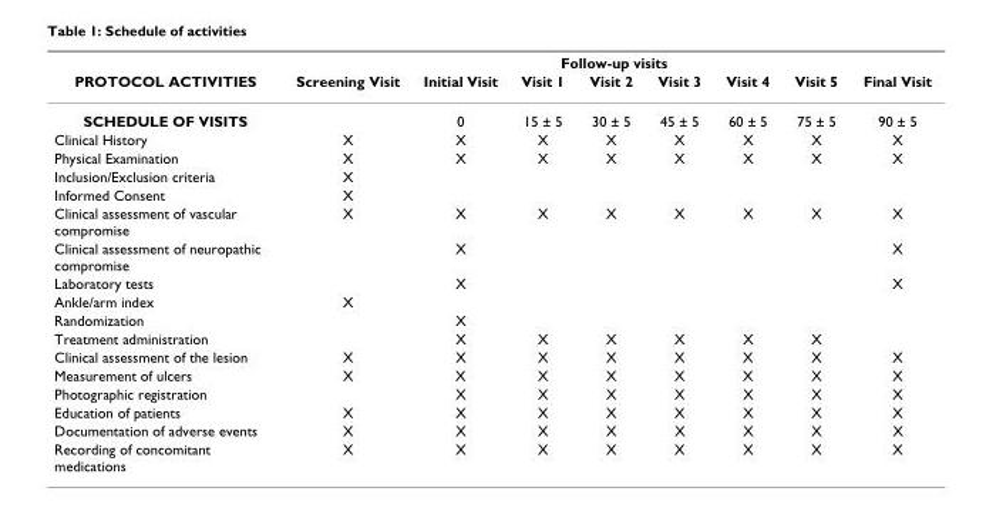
<table><thead><tr><td rowspan="2">PROTOCOL ACTIVITIES</td><td colspan="8">Follow-up visits</td></tr><tr><td>Screening Visit</td><td>Initial Visit</td><td>Visit 1</td><td>Visit 2</td><td>Visit 3</td><td>Visit 4</td><td>Visit 5</td><td>Final Visit</td></tr></thead><tbody><tr><td>SCHEDULE OF VISITS</td><td></td><td>0</td><td>15 ± 5</td><td>30 ± 5</td><td>45 ± 5</td><td>60 ± 5</td><td>75 ± 5</td><td>90 ± 5</td></tr><tr><td>Clinical History</td><td>X</td><td>X</td><td>X</td><td>X</td><td>X</td><td>X</td><td>X</td><td>X</td></tr><tr><td>Physical Examination</td><td>X</td><td>X</td><td>X</td><td>X</td><td>X</td><td>X</td><td>X</td><td>X</td></tr><tr><td>Inclusion/Exclusion criteria</td><td>X</td><td></td><td></td><td></td><td></td><td></td><td></td><td></td></tr><tr><td>Informed Consent</td><td>X</td><td></td><td></td><td></td><td></td><td></td><td></td><td></td></tr><tr><td>Clinical assessment of vascular compromise</td><td>X</td><td>X</td><td>X</td><td>X</td><td>X</td><td>X</td><td>X</td><td>X</td></tr><tr><td>Clinical assessment of neuropathic compromise</td><td></td><td>X</td><td></td><td></td><td></td><td></td><td></td><td>X</td></tr><tr><td>Laboratory tests</td><td></td><td>X</td><td></td><td></td><td></td><td></td><td></td><td>X</td></tr><tr><td>Ankle/arm index</td><td>X</td><td></td><td></td><td></td><td></td><td></td><td></td><td></td></tr><tr><td>Randomization</td><td></td><td>X</td><td></td><td></td><td></td><td></td><td></td><td></td></tr><tr><td>Treatment administration</td><td></td><td>X</td><td>X</td><td>X</td><td>X</td><td>X</td><td>X</td><td></td></tr><tr><td>Clinical assessment of the lesion</td><td>X</td><td>X</td><td>X</td><td>X</td><td>X</td><td>X</td><td>X</td><td>X</td></tr><tr><td>Measurement of ulcers</td><td>X</td><td>X</td><td>X</td><td>X</td><td>X</td><td>X</td><td>X</td><td>X</td></tr><tr><td>Photographic registration</td><td></td><td>X</td><td>X</td><td>X</td><td>X</td><td>X</td><td>X</td><td>X</td></tr><tr><td>Education of patients</td><td>X</td><td>X</td><td>X</td><td>X</td><td>X</td><td>X</td><td>X</td><td>X</td></tr><tr><td>Documentation of adverse events</td><td>X</td><td>X</td><td>X</td><td>X</td><td>X</td><td>X</td><td>X</td><td>X</td></tr><tr><td>Recording of concomitant medications</td><td>X</td><td>X</td><td>X</td><td>X</td><td>X</td><td>X</td><td>X</td><td>X</td></tr></tbody></table>